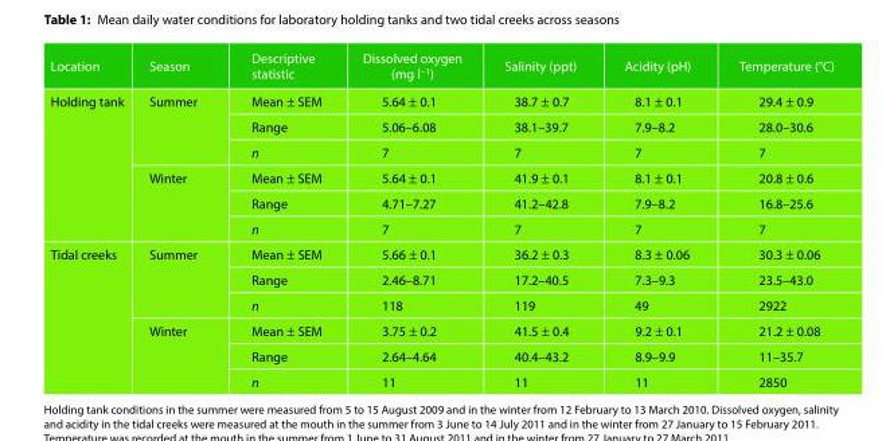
<table><thead><tr><td>Location</td><td>Season</td><td>Descriptive statistic</td><td>Dissolved oxygen (mg l<sup>−1</sup>)</td><td>Salinity (ppt)</td><td>Acidity (pH)</td><td>Temperature (°C)</td></tr></thead><tbody><tr><td rowspan="6">Holding tank</td><td>Summer</td><td>Mean ± SEM</td><td>5.64 ± 0.1</td><td>38.7 ± 0.7</td><td>8.1 ± 0.1</td><td>29.4 ± 0.9</td></tr><tr><td></td><td>Range</td><td>5.06–6.08</td><td>38.1–39.7</td><td>7.9–8.2</td><td>28.0–30.6</td></tr><tr><td></td><td>n</td><td>7</td><td>7</td><td>7</td><td>7</td></tr><tr><td>Winter</td><td>Mean ± SEM</td><td>5.64 ± 0.1</td><td>41.9 ± 0.1</td><td>8.1 ± 0.1</td><td>20.8 ± 0.6</td></tr><tr><td></td><td>Range</td><td>4.71–7.27</td><td>41.2–42.8</td><td>7.9–8.2</td><td>16.8–25.6</td></tr><tr><td></td><td>n</td><td>7</td><td>7</td><td>7</td><td>7</td></tr><tr><td rowspan="6">Tidal creeks</td><td>Summer</td><td>Mean ± SEM</td><td>5.66 ± 0.1</td><td>36.2 ± 0.3</td><td>8.3 ± 0.06</td><td>30.3 ± 0.06</td></tr><tr><td></td><td>Range</td><td>2.46–8.71</td><td>17.2–40.5</td><td>7.3–9.3</td><td>23.5–43.0</td></tr><tr><td></td><td>n</td><td>118</td><td>119</td><td>49</td><td>2922</td></tr><tr><td>Winter</td><td>Mean ± SEM</td><td>3.75 ± 0.2</td><td>41.5 ± 0.4</td><td>9.2 ± 0.1</td><td>21.2 ± 0.08</td></tr><tr><td></td><td>Range</td><td>2.64–4.64</td><td>40.4–43.2</td><td>8.9–9.9</td><td>11–35.7</td></tr><tr><td></td><td>n</td><td>11</td><td>11</td><td>11</td><td>2850</td></tr></tbody></table>